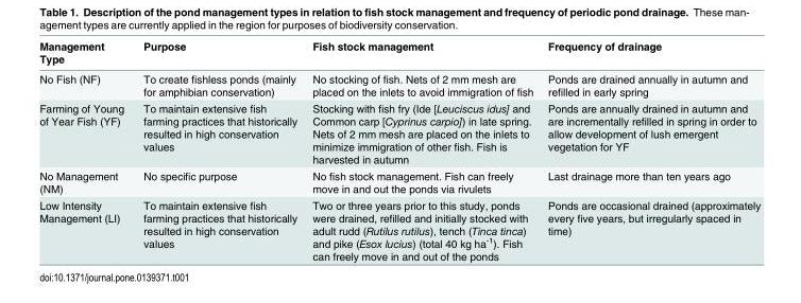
<table><thead><tr><td>Management Type</td><td>Purpose</td><td>Fish stock management</td><td>Frequency of drainage</td></tr></thead><tbody><tr><td>No Fish (NF)</td><td>To create fishless ponds (mainly for amphibian conservation)</td><td>No stocking of fish. Nets of 2 mm mesh are placed on the inlets to avoid immigration of fish</td><td>Ponds are drained annually in autumn and refilled in early spring</td></tr><tr><td>Farming of Young of Year Fish (YF)</td><td>To maintain extensive fish farming practices that historically resulted in high conservation values</td><td>Stocking with fish fry (Ide [Leuciscus idus] and Common carp [Cyprinus carpio]) in late spring. Nets of 2 mm mesh are placed on the inlets to minimize immigration of other fish. Fish is harvested in autumn</td><td>Ponds are annually drained in autumn and are incrementally refilled in spring in order to allow development of lush emergent vegetation for YF</td></tr><tr><td>No Management (NM)</td><td>No specific purpose</td><td>No fish stock management. Fish can freely move in and out the ponds via rivulets</td><td>Last drainage more than ten years ago</td></tr><tr><td>Low Intensity Management (LI)</td><td>To maintain extensive fish farming practices that historically resulted in high conservation values</td><td>Two or three years prior to this study, ponds were drained, refilled and initially stocked with adult rudd (Rutilus rutilus), tench (Tinca tinca) and pike (Esox lucius) (total 40 kg ha<sup>-1</sup>). Fish can freely move in and out of the ponds</td><td>Ponds are occasional drained (approximately every five years, but irregularly spaced in time)</td></tr></tbody></table>